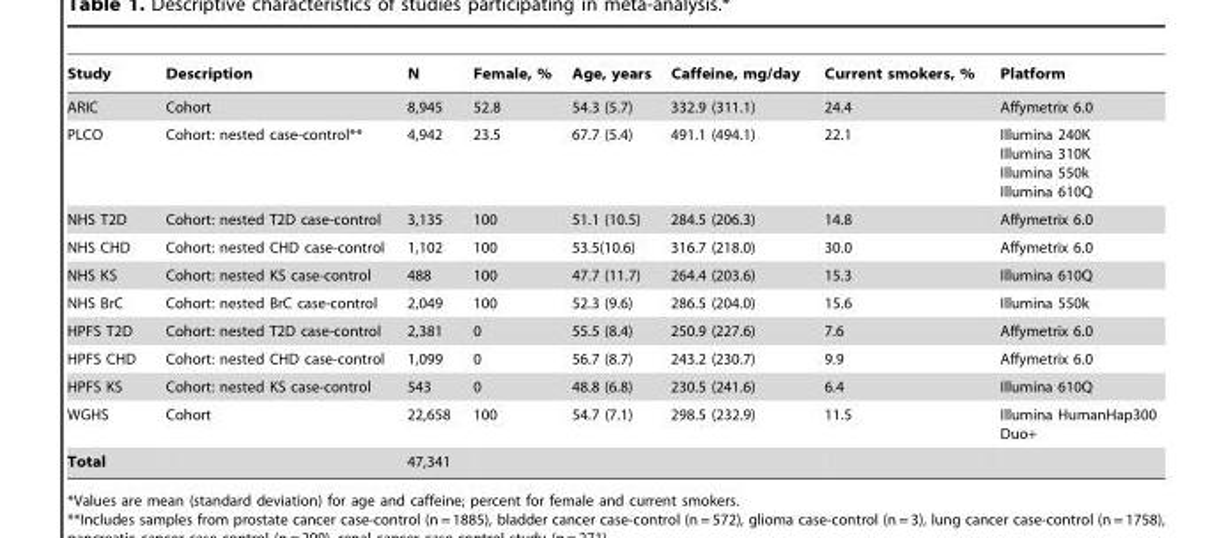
<table><thead><tr><td>Study</td><td>Description</td><td>N</td><td>Female, %</td><td>Age, years</td><td>Caffeine, mg/day</td><td>Current smokers, %</td><td>Platform</td></tr></thead><tbody><tr><td>ARIC</td><td>Cohort</td><td>8,945</td><td>52.8</td><td>54.3 (5.7)</td><td>332.9 (311.1)</td><td>24.4</td><td>Affymetrix 6.0</td></tr><tr><td>PLCO</td><td>Cohort: nested case-control**</td><td>4,942</td><td>23.5</td><td>67.7 (5.4)</td><td>491.1 (494.1)</td><td>22.1</td><td>Illumina 240K Illumina 310K Illumina 550k Illumina 610Q</td></tr><tr><td>NHS T2D</td><td>Cohort: nested T2D case-control</td><td>3,135</td><td>100</td><td>51.1 (10.5)</td><td>284.5 (206.3)</td><td>14.8</td><td>Affymetrix 6.0</td></tr><tr><td>NHS CHD</td><td>Cohort: nested CHD case-control</td><td>1,102</td><td>100</td><td>53.5(10.6)</td><td>316.7 (218.0)</td><td>30.0</td><td>Affymetrix 6.0</td></tr><tr><td>NHS KS</td><td>Cohort: nested KS case-control</td><td>488</td><td>100</td><td>47.7 (11.7)</td><td>264.4 (203.6)</td><td>15.3</td><td>Illumina 610Q</td></tr><tr><td>NHS BrC</td><td>Cohort: nested BrC case-control</td><td>2,049</td><td>100</td><td>52.3 (9.6)</td><td>286.5 (204.0)</td><td>15.6</td><td>Illumina 550k</td></tr><tr><td>HPFS T2D</td><td>Cohort: nested T2D case-control</td><td>2,381</td><td>0</td><td>55.5 (8.4)</td><td>250.9 (227.6)</td><td>7.6</td><td>Affymetrix 6.0</td></tr><tr><td>HPFS CHD</td><td>Cohort: nested CHD case-control</td><td>1,099</td><td>0</td><td>56.7 (8.7)</td><td>243.2 (230.7)</td><td>9.9</td><td>Affymetrix 6.0</td></tr><tr><td>HPFS KS</td><td>Cohort: nested KS case-control</td><td>543</td><td>0</td><td>48.8 (6.8)</td><td>230.5 (241.6)</td><td>6.4</td><td>Illumina 610Q</td></tr><tr><td>WGHS</td><td>Cohort</td><td>22,658</td><td>100</td><td>54.7 (7.1)</td><td>298.5 (232.9)</td><td>11.5</td><td>Illumina HumanHap300 Duo+</td></tr><tr><td>Total</td><td></td><td>47,341</td><td></td><td></td><td></td><td></td><td></td></tr></tbody></table>